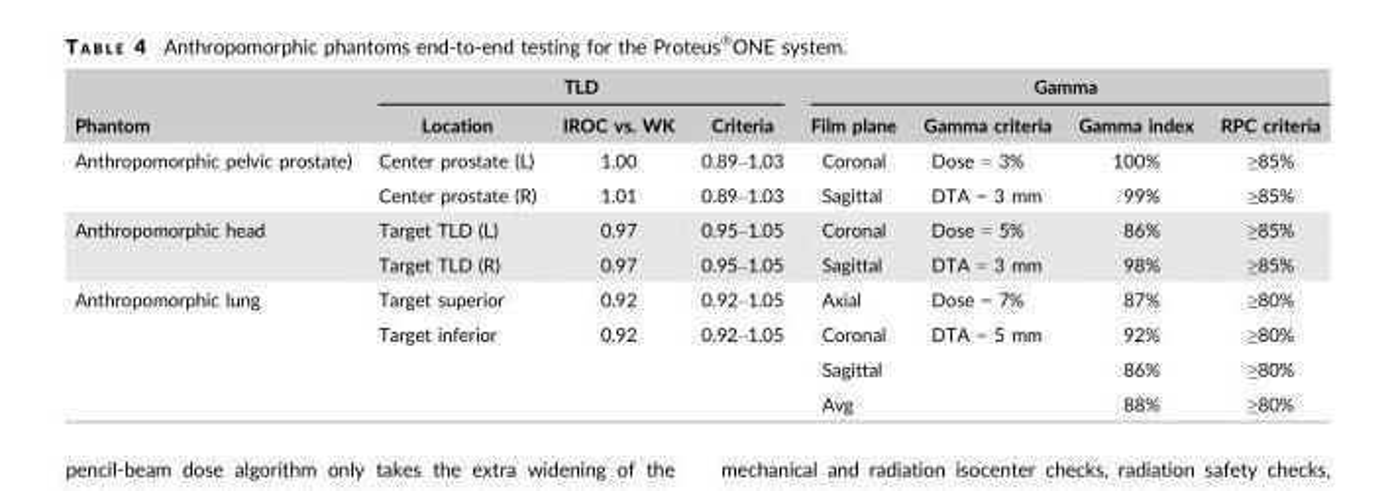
<table><thead><tr><td rowspan="2">Phantom</td><td colspan="3">TLD</td><td colspan="4">Gamma</td></tr><tr><td>Location</td><td>IROC vs. WK</td><td>Criteria</td><td>Film plane</td><td>Gamma criteria</td><td>Gamma index</td><td>RPC criteria</td></tr></thead><tbody><tr><td rowspan="2">Anthropomorphic pelvic prostate)</td><td>Center prostate (L)</td><td>1.00</td><td>0.89–1.03</td><td>Coronal</td><td>Dose = 3%</td><td>100%</td><td>≥85%</td></tr><tr><td>Center prostate (R)</td><td>1.01</td><td>0.89–1.03</td><td>Sagittal</td><td>DTA = 3 mm</td><td>99%</td><td>≥85%</td></tr><tr><td rowspan="2">Anthropomorphic head</td><td>Target TLD (L)</td><td>0.97</td><td>0.95–1.05</td><td>Coronal</td><td>Dose = 5%</td><td>86%</td><td>≥85%</td></tr><tr><td>Target TLD (R)</td><td>0.97</td><td>0.95–1.05</td><td>Sagittal</td><td>DTA = 3 mm</td><td>98%</td><td>≥85%</td></tr><tr><td rowspan="4">Anthropomorphic lung</td><td>Target superior</td><td>0.92</td><td>0.92–1.05</td><td>Axial</td><td>Dose = 7%</td><td>87%</td><td>≥80%</td></tr><tr><td>Target inferior</td><td>0.92</td><td>0.92–1.05</td><td>Coronal</td><td>DTA = 5 mm</td><td>92%</td><td>≥80%</td></tr><tr><td></td><td></td><td></td><td>Sagittal</td><td></td><td>86%</td><td>≥80%</td></tr><tr><td></td><td></td><td></td><td>Avg</td><td></td><td>88%</td><td>≥80%</td></tr></tbody></table>